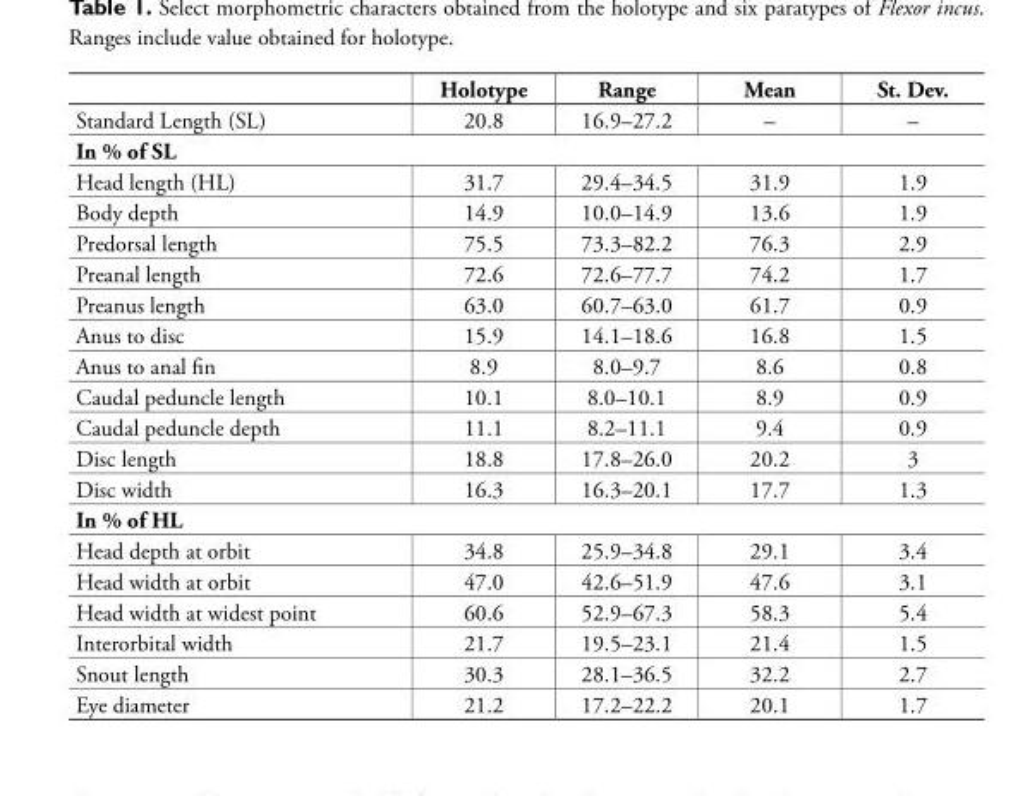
<table><thead><tr><td></td><td>Holotype</td><td>Range</td><td>Mean</td><td>St. Dev.</td></tr></thead><tbody><tr><td>Standard Length (SL)</td><td>20.8</td><td>16.9–27.2</td><td>–</td><td>–</td></tr><tr><td colspan="5">In % of SL</td></tr><tr><td>Head length (HL)</td><td>31.7</td><td>29.4–34.5</td><td>31.9</td><td>1.9</td></tr><tr><td>Body depth</td><td>14.9</td><td>10.0–14.9</td><td>13.6</td><td>1.9</td></tr><tr><td>Predorsal length</td><td>75.5</td><td>73.3–82.2</td><td>76.3</td><td>2.9</td></tr><tr><td>Preanal length</td><td>72.6</td><td>72.6–77.7</td><td>74.2</td><td>1.7</td></tr><tr><td>Preanus length</td><td>63.0</td><td>60.7–63.0</td><td>61.7</td><td>0.9</td></tr><tr><td>Anus to disc</td><td>15.9</td><td>14.1–18.6</td><td>16.8</td><td>1.5</td></tr><tr><td>Anus to anal fin</td><td>8.9</td><td>8.0–9.7</td><td>8.6</td><td>0.8</td></tr><tr><td>Caudal peduncle length</td><td>10.1</td><td>8.0–10.1</td><td>8.9</td><td>0.9</td></tr><tr><td>Caudal peduncle depth</td><td>11.1</td><td>8.2–11.1</td><td>9.4</td><td>0.9</td></tr><tr><td>Disc length</td><td>18.8</td><td>17.8–26.0</td><td>20.2</td><td>3</td></tr><tr><td>Disc width</td><td>16.3</td><td>16.3–20.1</td><td>17.7</td><td>1.3</td></tr><tr><td colspan="5">In % of HL</td></tr><tr><td>Head depth at orbit</td><td>34.8</td><td>25.9–34.8</td><td>29.1</td><td>3.4</td></tr><tr><td>Head width at orbit</td><td>47.0</td><td>42.6–51.9</td><td>47.6</td><td>3.1</td></tr><tr><td>Head width at widest point</td><td>60.6</td><td>52.9–67.3</td><td>58.3</td><td>5.4</td></tr><tr><td>Interorbital width</td><td>21.7</td><td>19.5–23.1</td><td>21.4</td><td>1.5</td></tr><tr><td>Snout length</td><td>30.3</td><td>28.1–36.5</td><td>32.2</td><td>2.7</td></tr><tr><td>Eye diameter</td><td>21.2</td><td>17.2–22.2</td><td>20.1</td><td>1.7</td></tr></tbody></table>